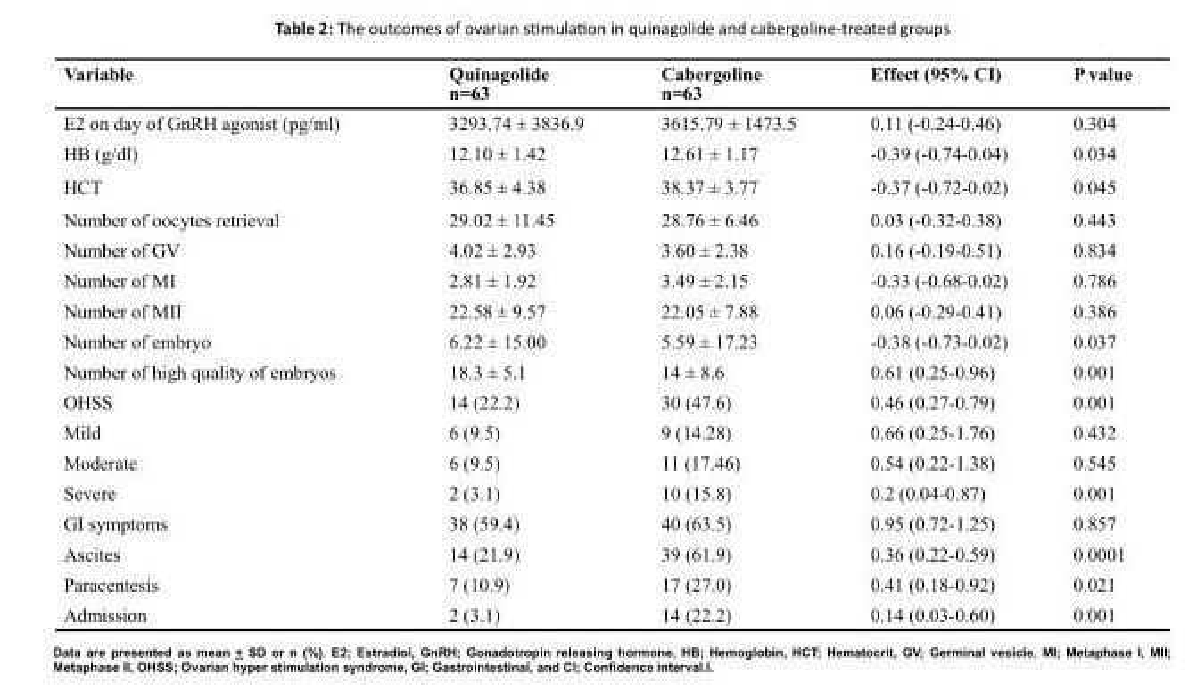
<table><thead><tr><td>Variable</td><td>Quinagolide n=63</td><td>Cabergoline n=63</td><td>Effect (95% CI)</td><td>P value</td></tr></thead><tbody><tr><td>E2 on day of GnRH agonist (pg/ml)</td><td>3293.74 ± 3836.9</td><td>3615.79 ± 1473.5</td><td>0.11 (-0.24-0.46)</td><td>0.304</td></tr><tr><td>HB (g/dl)</td><td>12.10 ± 1.42</td><td>12.61 ± 1.17</td><td>-0.39 (-0.74-0.04)</td><td>0.034</td></tr><tr><td>HCT</td><td>36.85 ± 4.38</td><td>38.37 ± 3.77</td><td>-0.37 (-0.72-0.02)</td><td>0.045</td></tr><tr><td>Number of oocytes retrieval</td><td>29.02 ± 11.45</td><td>28.76 ± 6.46</td><td>0.03 (-0.32-0.38)</td><td>0.443</td></tr><tr><td>Number of GV</td><td>4.02 ± 2.93</td><td>3.60 ± 2.38</td><td>0.16 (-0.19-0.51)</td><td>0.834</td></tr><tr><td>Number of MI</td><td>2.81 ± 1.92</td><td>3.49 ± 2.15</td><td>-0.33 (-0.68-0.02)</td><td>0.786</td></tr><tr><td>Number of MII</td><td>22.58 ± 9.57</td><td>22.05 ± 7.88</td><td>0.06 (-0.29-0.41)</td><td>0.386</td></tr><tr><td>Number of embryo</td><td>6.22 ± 15.00</td><td>5.59 ± 17.23</td><td>-0.38 (-0.73-0.02)</td><td>0.037</td></tr><tr><td>Number of high quality of embryos</td><td>18.3 ± 5.1</td><td>14 ± 8.6</td><td>0.61 (0.25-0.96)</td><td>0.001</td></tr><tr><td>OHSS</td><td>14 (22.2)</td><td>30 (47.6)</td><td>0.46 (0.27-0.79)</td><td>0.001</td></tr><tr><td>Mild</td><td>6 (9.5)</td><td>9 (14.28)</td><td>0.66 (0.25-1.76)</td><td>0.432</td></tr><tr><td>Moderate</td><td>6 (9.5)</td><td>11 (17.46)</td><td>0.54 (0.22-1.38)</td><td>0.545</td></tr><tr><td>Severe</td><td>2 (3.1)</td><td>10 (15.8)</td><td>0.2 (0.04-0.87)</td><td>0.001</td></tr><tr><td>GI symptoms</td><td>38 (59.4)</td><td>40 (63.5)</td><td>0.95 (0.72-1.25)</td><td>0.857</td></tr><tr><td>Ascites</td><td>14 (21.9)</td><td>39 (61.9)</td><td>0.36 (0.22-0.59)</td><td>0.0001</td></tr><tr><td>Paracentesis</td><td>7 (10.9)</td><td>17 (27.0)</td><td>0.41 (0.18-0.92)</td><td>0.021</td></tr><tr><td>Admission</td><td>2 (3.1)</td><td>14 (22.2)</td><td>0.14 (0.03-0.60)</td><td>0.001</td></tr></tbody></table>